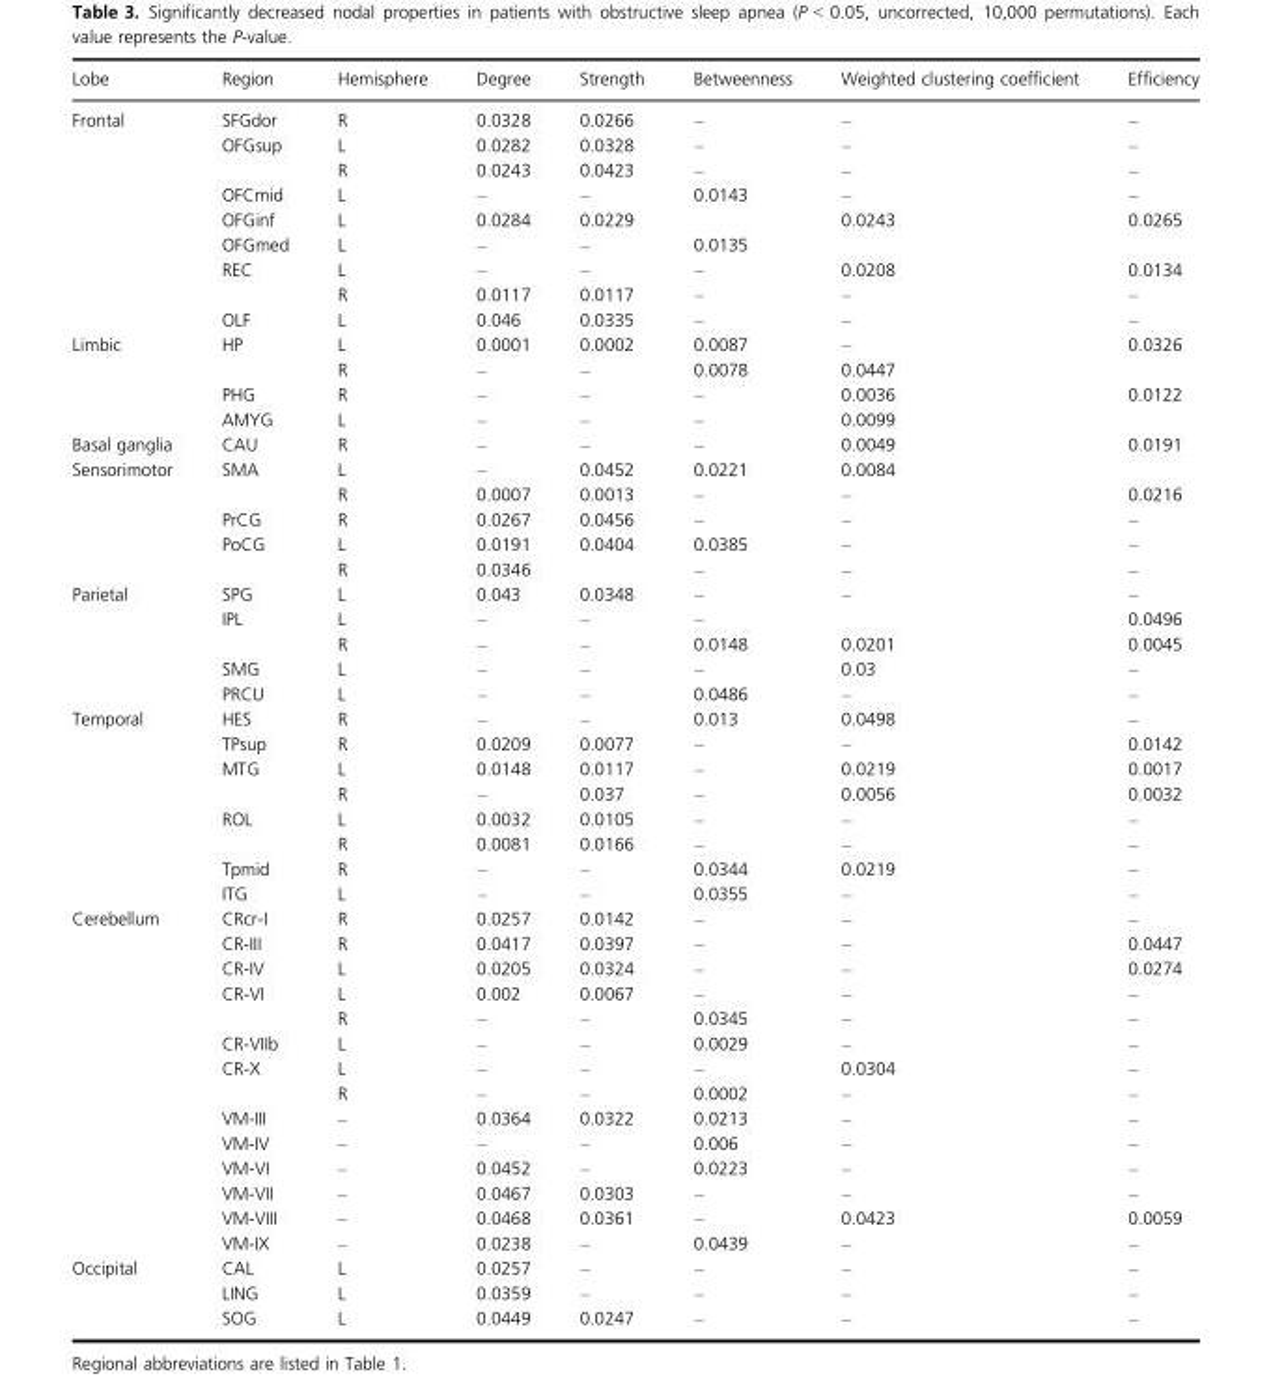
<table><thead><tr><td>Lobe</td><td>Region</td><td>Hemisphere</td><td>Degree</td><td>Strength</td><td>Betweenness</td><td>Weighted clustering coefficient</td><td>Efficiency</td></tr></thead><tbody><tr><td rowspan="9">Frontal</td><td>SFGdor</td><td>R</td><td>0.0328</td><td>0.0266</td><td>–</td><td>–</td><td>–</td></tr><tr><td rowspan="2">OFGsup</td><td>L</td><td>0.0282</td><td>0.0328</td><td>–</td><td>–</td><td>–</td></tr><tr><td>R</td><td>0.0243</td><td>0.0423</td><td>–</td><td>–</td><td>–</td></tr><tr><td>OFCmid</td><td>L</td><td>–</td><td>–</td><td>0.0143</td><td>–</td><td>–</td></tr><tr><td>OFGinf</td><td>L</td><td>0.0284</td><td>0.0229</td><td></td><td>0.0243</td><td>0.0265</td></tr><tr><td>OFGmed</td><td>L</td><td>–</td><td>–</td><td>0.0135</td><td></td><td></td></tr><tr><td rowspan="2">REC</td><td>L</td><td>–</td><td>–</td><td>–</td><td>0.0208</td><td>0.0134</td></tr><tr><td>R</td><td>0.0117</td><td>0.0117</td><td>–</td><td>–</td><td>–</td></tr><tr><td>OLF</td><td>L</td><td>0.046</td><td>0.0335</td><td>–</td><td>–</td><td>–</td></tr><tr><td rowspan="4">Limbic</td><td rowspan="2">HP</td><td>L</td><td>0.0001</td><td>0.0002</td><td>0.0087</td><td>–</td><td>0.0326</td></tr><tr><td>R</td><td>–</td><td>–</td><td>0.0078</td><td>0.0447</td><td></td></tr><tr><td>PHG</td><td>R</td><td>–</td><td>–</td><td>–</td><td>0.0036</td><td>0.0122</td></tr><tr><td>AMYG</td><td>L</td><td>–</td><td>–</td><td>–</td><td>0.0099</td><td></td></tr><tr><td>Basal ganglia</td><td>CAU</td><td>R</td><td>–</td><td>–</td><td>–</td><td>0.0049</td><td>0.0191</td></tr><tr><td rowspan="5">Sensorimotor</td><td rowspan="2">SMA</td><td>L</td><td>–</td><td>0.0452</td><td>0.0221</td><td>0.0084</td><td></td></tr><tr><td>R</td><td>0.0007</td><td>0.0013</td><td>–</td><td>–</td><td>0.0216</td></tr><tr><td>PrCG</td><td>R</td><td>0.0267</td><td>0.0456</td><td>–</td><td>–</td><td>–</td></tr><tr><td rowspan="2">PoCG</td><td>L</td><td>0.0191</td><td>0.0404</td><td>0.0385</td><td>–</td><td>–</td></tr><tr><td>R</td><td>0.0346</td><td></td><td>–</td><td>–</td><td>–</td></tr><tr><td rowspan="5">Parietal</td><td>SPG</td><td>L</td><td>0.043</td><td>0.0348</td><td>–</td><td>–</td><td>–</td></tr><tr><td rowspan="2">IPL</td><td>L</td><td>–</td><td>–</td><td>–</td><td></td><td>0.0496</td></tr><tr><td>R</td><td>–</td><td>–</td><td>0.0148</td><td>0.0201</td><td>0.0045</td></tr><tr><td>SMG</td><td>L</td><td>–</td><td>–</td><td>–</td><td>0.03</td><td>–</td></tr><tr><td>PRCU</td><td>L</td><td>–</td><td>–</td><td>0.0486</td><td>–</td><td>–</td></tr><tr><td rowspan="8">Temporal</td><td>HES</td><td>R</td><td>–</td><td>–</td><td>0.013</td><td>0.0498</td><td>–</td></tr><tr><td>TPsup</td><td>R</td><td>0.0209</td><td>0.0077</td><td>–</td><td>–</td><td>0.0142</td></tr><tr><td rowspan="2">MTG</td><td>L</td><td>0.0148</td><td>0.0117</td><td>–</td><td>0.0219</td><td>0.0017</td></tr><tr><td>R</td><td>–</td><td>0.037</td><td>–</td><td>0.0056</td><td>0.0032</td></tr><tr><td rowspan="2">ROL</td><td>L</td><td>0.0032</td><td>0.0105</td><td>–</td><td>–</td><td>–</td></tr><tr><td>R</td><td>0.0081</td><td>0.0166</td><td>–</td><td>–</td><td>–</td></tr><tr><td>Tpmid</td><td>R</td><td>–</td><td>–</td><td>0.0344</td><td>0.0219</td><td>–</td></tr><tr><td>ITG</td><td>L</td><td>–</td><td>–</td><td>0.0355</td><td>–</td><td>–</td></tr><tr><td rowspan="14">Cerebellum</td><td>CRcr-I</td><td>R</td><td>0.0257</td><td>0.0142</td><td>–</td><td>–</td><td>–</td></tr><tr><td>CR-III</td><td>R</td><td>0.0417</td><td>0.0397</td><td>–</td><td>–</td><td>0.0447</td></tr><tr><td>CR-IV</td><td>L</td><td>0.0205</td><td>0.0324</td><td>–</td><td>–</td><td>0.0274</td></tr><tr><td rowspan="2">CR-VI</td><td>L</td><td>0.002</td><td>0.0067</td><td>–</td><td>–</td><td>–</td></tr><tr><td>R</td><td>–</td><td>–</td><td>0.0345</td><td>–</td><td>–</td></tr><tr><td>CR-VIIb</td><td>L</td><td>–</td><td>–</td><td>0.0029</td><td>–</td><td>–</td></tr><tr><td rowspan="2">CR-X</td><td>L</td><td>–</td><td>–</td><td>–</td><td>0.0304</td><td>–</td></tr><tr><td>R</td><td>–</td><td>–</td><td>0.0002</td><td>–</td><td>–</td></tr><tr><td>VM-III</td><td>–</td><td>0.0364</td><td>0.0322</td><td>0.0213</td><td>–</td><td>–</td></tr><tr><td>VM-IV</td><td>–</td><td>–</td><td>–</td><td>0.006</td><td>–</td><td>–</td></tr><tr><td>VM-VI</td><td>–</td><td>0.0452</td><td>–</td><td>0.0223</td><td>–</td><td>–</td></tr><tr><td>VM-VII</td><td>–</td><td>0.0467</td><td>0.0303</td><td>–</td><td>–</td><td>–</td></tr><tr><td>VM-VIII</td><td>–</td><td>0.0468</td><td>0.0361</td><td>–</td><td>0.0423</td><td>0.0059</td></tr><tr><td>VM-IX</td><td>–</td><td>0.0238</td><td>–</td><td>0.0439</td><td>–</td><td>–</td></tr><tr><td rowspan="3">Occipital</td><td>CAL</td><td>L</td><td>0.0257</td><td>–</td><td>–</td><td>–</td><td>–</td></tr><tr><td>LING</td><td>L</td><td>0.0359</td><td>–</td><td>–</td><td>–</td><td>–</td></tr><tr><td>SOG</td><td>L</td><td>0.0449</td><td>0.0247</td><td>–</td><td>–</td><td>–</td></tr></tbody></table>